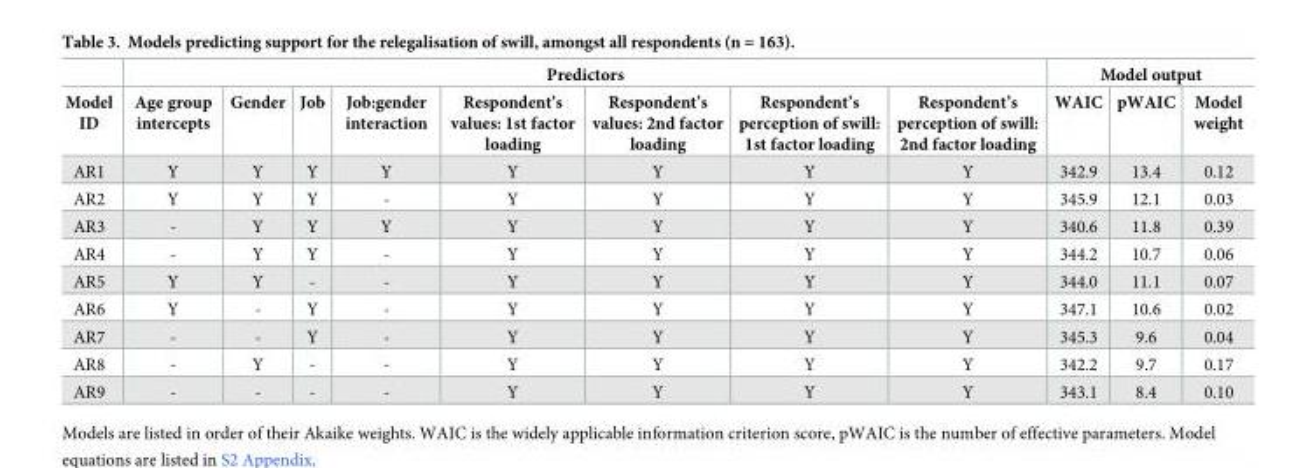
<table><thead><tr><td rowspan="2">Model ID</td><td colspan="8">Predictors</td><td colspan="3">Model output</td></tr><tr><td>Age group intercepts</td><td>Gender</td><td>Job</td><td>Job:gender interaction</td><td>Respondent’s values: 1st factor loading</td><td>Respondent’s values: 2nd factor loading</td><td>Respondent’s perception of swill: 1st factor loading</td><td>Respondent’s perception of swill: 2nd factor loading</td><td>WAIC</td><td>pWAIC</td><td>Model weight</td></tr></thead><tbody><tr><td>AR1</td><td>Y</td><td>Y</td><td>Y</td><td>Y</td><td>Y</td><td>Y</td><td>Y</td><td>Y</td><td>342.9</td><td>13.4</td><td>0.12</td></tr><tr><td>AR2</td><td>Y</td><td>Y</td><td>Y</td><td>-</td><td>Y</td><td>Y</td><td>Y</td><td>Y</td><td>345.9</td><td>12.1</td><td>0.03</td></tr><tr><td>AR3</td><td>-</td><td>Y</td><td>Y</td><td>Y</td><td>Y</td><td>Y</td><td>Y</td><td>Y</td><td>340.6</td><td>11.8</td><td>0.39</td></tr><tr><td>AR4</td><td>-</td><td>Y</td><td>Y</td><td>-</td><td>Y</td><td>Y</td><td>Y</td><td>Y</td><td>344.2</td><td>10.7</td><td>0.06</td></tr><tr><td>AR5</td><td>Y</td><td>Y</td><td>-</td><td>-</td><td>Y</td><td>Y</td><td>Y</td><td>Y</td><td>344.0</td><td>11.1</td><td>0.07</td></tr><tr><td>AR6</td><td>Y</td><td>-</td><td>Y</td><td>-</td><td>Y</td><td>Y</td><td>Y</td><td>Y</td><td>347.1</td><td>10.6</td><td>0.02</td></tr><tr><td>AR7</td><td>-</td><td>-</td><td>Y</td><td>-</td><td>Y</td><td>Y</td><td>Y</td><td>Y</td><td>345.3</td><td>9.6</td><td>0.04</td></tr><tr><td>AR8</td><td>-</td><td>Y</td><td>-</td><td>-</td><td>Y</td><td>Y</td><td>Y</td><td>Y</td><td>342.2</td><td>9.7</td><td>0.17</td></tr><tr><td>AR9</td><td>-</td><td>-</td><td>-</td><td>-</td><td>Y</td><td>Y</td><td>Y</td><td>Y</td><td>343.1</td><td>8.4</td><td>0.10</td></tr></tbody></table>